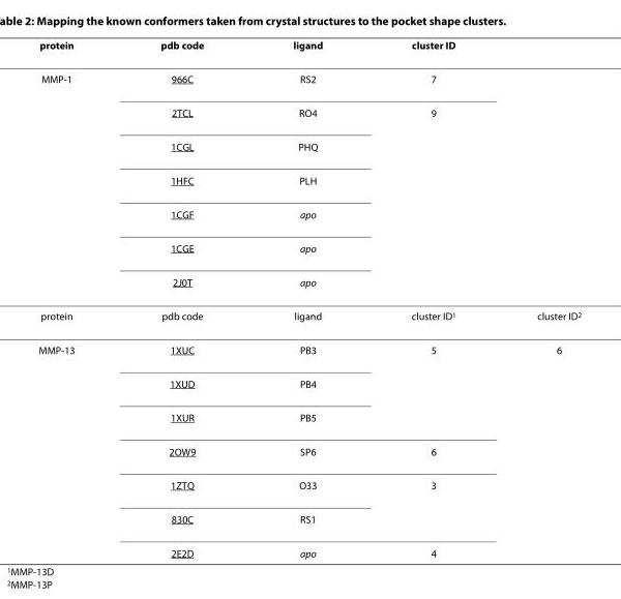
<table><thead><tr><td>protein</td><td>pdb code</td><td>ligand</td><td>cluster ID</td><td></td></tr></thead><tbody><tr><td rowspan="7">MMP-1</td><td>966C</td><td>RS2</td><td>7</td><td></td></tr><tr><td>2TCL</td><td>RO4</td><td>9</td><td></td></tr><tr><td>1CGL</td><td>PHQ</td><td></td><td></td></tr><tr><td>1HFC</td><td>PLH</td><td></td><td></td></tr><tr><td>1CGF</td><td>apo</td><td></td><td></td></tr><tr><td>1CGE</td><td>apo</td><td></td><td></td></tr><tr><td>2J0T</td><td>apo</td><td></td><td></td></tr><tr><td>protein</td><td>pdb code</td><td>ligand</td><td>cluster ID<sup>1</sup></td><td>cluster ID<sup>2</sup></td></tr><tr><td rowspan="7">MMP-13</td><td>1XUC</td><td>PB3</td><td>5</td><td>6</td></tr><tr><td>1XUD</td><td>PB4</td><td></td><td></td></tr><tr><td>1XUR</td><td>PB5</td><td></td><td></td></tr><tr><td>2OW9</td><td>SP6</td><td>6</td><td></td></tr><tr><td>1ZTQ</td><td>O33</td><td>3</td><td></td></tr><tr><td>830C</td><td>RS1</td><td></td><td></td></tr><tr><td>2E2D</td><td>apo</td><td>4</td><td></td></tr></tbody></table>